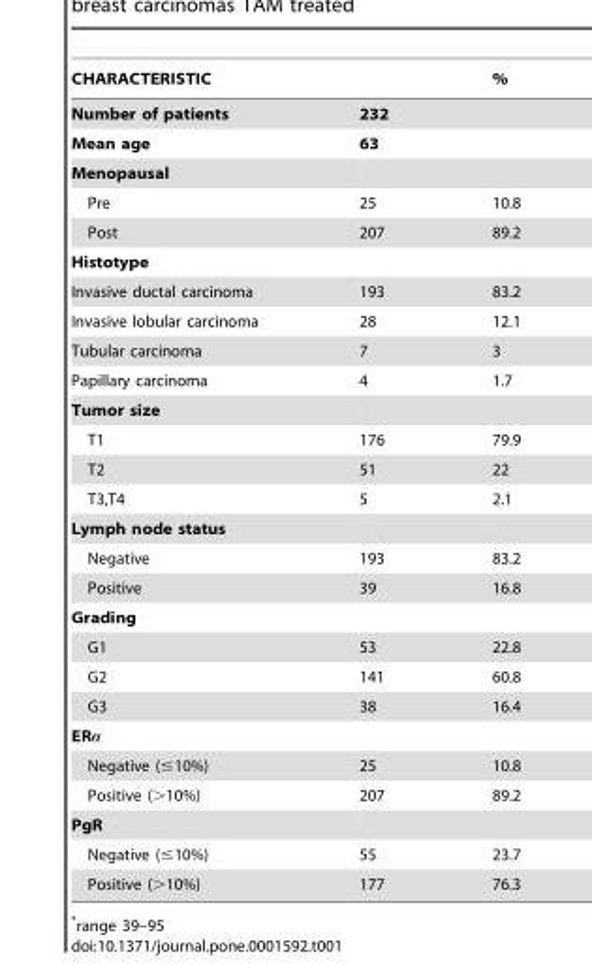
<table><thead><tr><td>CHARACTERISTIC</td><td></td><td>%</td></tr></thead><tbody><tr><td>Number of patients</td><td>232</td><td></td></tr><tr><td>Mean age</td><td>63</td><td></td></tr><tr><td colspan="3">Menopausal</td></tr><tr><td>Pre</td><td>25</td><td>10.8</td></tr><tr><td>Post</td><td>207</td><td>89.2</td></tr><tr><td colspan="3">Histotype</td></tr><tr><td>Invasive ductal carcinoma</td><td>193</td><td>83.2</td></tr><tr><td>Invasive lobular carcinoma</td><td>28</td><td>12.1</td></tr><tr><td>Tubular carcinoma</td><td>7</td><td>3</td></tr><tr><td>Papillary carcinoma</td><td>4</td><td>1.7</td></tr><tr><td colspan="3">Tumor size</td></tr><tr><td>T1</td><td>176</td><td>79.9</td></tr><tr><td>T2</td><td>51</td><td>22</td></tr><tr><td>T3,T4</td><td>5</td><td>2.1</td></tr><tr><td colspan="3">Lymph node status</td></tr><tr><td>Negative</td><td>193</td><td>83.2</td></tr><tr><td>Positive</td><td>39</td><td>16.8</td></tr><tr><td colspan="3">Grading</td></tr><tr><td>G1</td><td>53</td><td>22.8</td></tr><tr><td>G2</td><td>141</td><td>60.8</td></tr><tr><td>G3</td><td>38</td><td>16.4</td></tr><tr><td colspan="3">ERα</td></tr><tr><td>Negative (≤10%)</td><td>25</td><td>10.8</td></tr><tr><td>Positive (&gt;10%)</td><td>207</td><td>89.2</td></tr><tr><td colspan="3">PgR</td></tr><tr><td>Negative (≤10%)</td><td>55</td><td>23.7</td></tr><tr><td>Positive (&gt;10%)</td><td>177</td><td>76.3</td></tr></tbody></table>